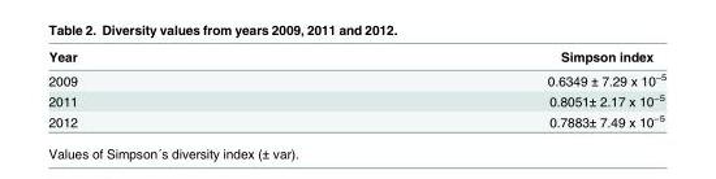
<table><thead><tr><td>Year</td><td>Simpson index</td></tr></thead><tbody><tr><td>2009</td><td>0.6349 ± 7.29 x 10<sup>−5</sup></td></tr><tr><td>2011</td><td>0.8051± 2.17 x 10<sup>−5</sup></td></tr><tr><td>2012</td><td>0.7883± 7.49 x 10<sup>−5</sup></td></tr></tbody></table>